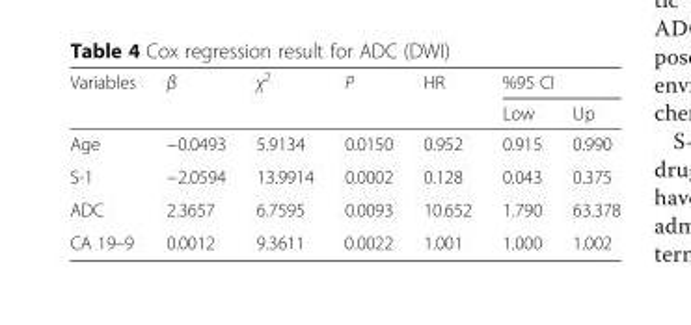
<table><thead><tr><td rowspan="2">Variables</td><td rowspan="2">β</td><td rowspan="2">χ2</td><td rowspan="2">P</td><td rowspan="2">HR</td><td colspan="2">%95 CI</td></tr><tr><td>Low</td><td>Up</td></tr></thead><tbody><tr><td>Age</td><td>−0.0493</td><td>5.9134</td><td>0.0150</td><td>0.952</td><td>0.915</td><td>0.990</td></tr><tr><td>S-1</td><td>−2.0594</td><td>13.9914</td><td>0.0002</td><td>0.128</td><td>0.043</td><td>0.375</td></tr><tr><td>ADC</td><td>2.3657</td><td>6.7595</td><td>0.0093</td><td>10.652</td><td>1.790</td><td>63.378</td></tr><tr><td>CA 19–9</td><td>0.0012</td><td>9.3611</td><td>0.0022</td><td>1.001</td><td>1.000</td><td>1.002</td></tr></tbody></table>